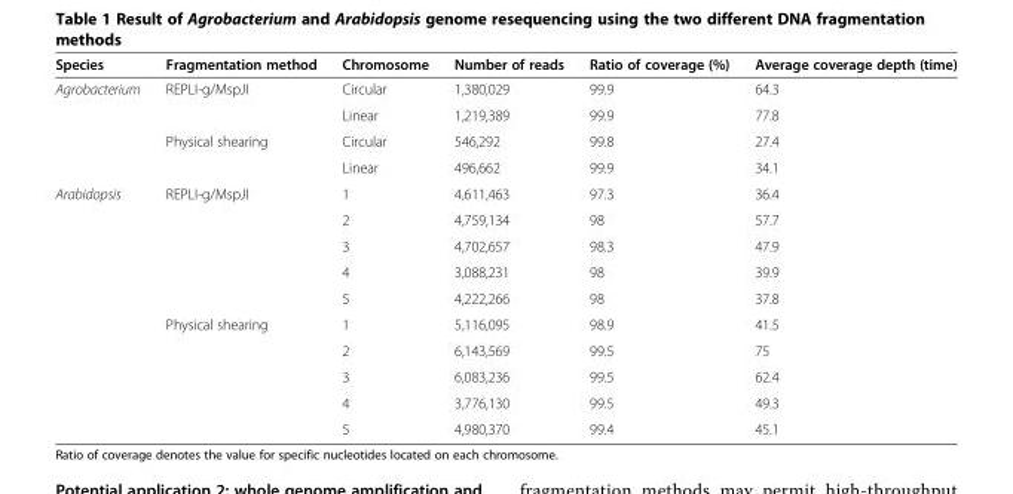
<table><thead><tr><td>Species</td><td>Fragmentation method</td><td>Chromosome</td><td>Number of reads</td><td>Ratio of coverage (%)</td><td>Average coverage depth (time)</td></tr></thead><tbody><tr><td rowspan="4">Agrobacterium</td><td>REPLI-g/MspJI</td><td>Circular</td><td>1,380,029</td><td>99.9</td><td>64.3</td></tr><tr><td></td><td>Linear</td><td>1,219,389</td><td>99.9</td><td>77.8</td></tr><tr><td>Physical shearing</td><td>Circular</td><td>546,292</td><td>99.8</td><td>27.4</td></tr><tr><td></td><td>Linear</td><td>496,662</td><td>99.9</td><td>34.1</td></tr><tr><td rowspan="10">Arabidopsis</td><td>REPLI-g/MspJI</td><td>1</td><td>4,611,463</td><td>97.3</td><td>36.4</td></tr><tr><td></td><td>2</td><td>4,759,134</td><td>98</td><td>57.7</td></tr><tr><td></td><td>3</td><td>4,702,657</td><td>98.3</td><td>47.9</td></tr><tr><td></td><td>4</td><td>3,088,231</td><td>98</td><td>39.9</td></tr><tr><td></td><td>5</td><td>4,222,266</td><td>98</td><td>37.8</td></tr><tr><td>Physical shearing</td><td>1</td><td>5,116,095</td><td>98.9</td><td>41.5</td></tr><tr><td></td><td>2</td><td>6,143,569</td><td>99.5</td><td>75</td></tr><tr><td></td><td>3</td><td>6,083,236</td><td>99.5</td><td>62.4</td></tr><tr><td></td><td>4</td><td>3,776,130</td><td>99.5</td><td>49.3</td></tr><tr><td></td><td>5</td><td>4,980,370</td><td>99.4</td><td>45.1</td></tr></tbody></table>